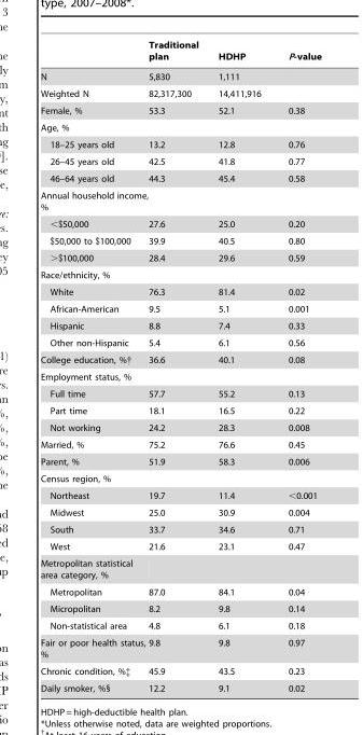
<table><thead><tr><td></td><td>Traditional plan</td><td>HDHP</td><td>P-value</td></tr></thead><tbody><tr><td>N</td><td>5,830</td><td>1,111</td><td></td></tr><tr><td>Weighted N</td><td>82,317,300</td><td>14,411,916</td><td></td></tr><tr><td>Female, %</td><td>53.3</td><td>52.1</td><td>0.38</td></tr><tr><td colspan="4">Age, %</td></tr><tr><td>18–25 years old</td><td>13.2</td><td>12.8</td><td>0.76</td></tr><tr><td>26–45 years old</td><td>42.5</td><td>41.8</td><td>0.77</td></tr><tr><td>46–64 years old</td><td>44.3</td><td>45.4</td><td>0.58</td></tr><tr><td colspan="4">Annual household income, %</td></tr><tr><td>&lt;$50,000</td><td>27.6</td><td>25.0</td><td>0.20</td></tr><tr><td>$50,000 to $100,000</td><td>39.9</td><td>40.5</td><td>0.80</td></tr><tr><td>&gt;$100,000</td><td>28.4</td><td>29.6</td><td>0.59</td></tr><tr><td colspan="4">Race/ethnicity, %</td></tr><tr><td>White</td><td>76.3</td><td>81.4</td><td>0.02</td></tr><tr><td>African-American</td><td>9.5</td><td>5.1</td><td>0.001</td></tr><tr><td>Hispanic</td><td>8.8</td><td>7.4</td><td>0.33</td></tr><tr><td>Other non-Hispanic</td><td>5.4</td><td>6.1</td><td>0.56</td></tr><tr><td>College education, %†</td><td>36.6</td><td>40.1</td><td>0.08</td></tr><tr><td colspan="4">Employment status, %</td></tr><tr><td>Full time</td><td>57.7</td><td>55.2</td><td>0.13</td></tr><tr><td>Part time</td><td>18.1</td><td>16.5</td><td>0.22</td></tr><tr><td>Not working</td><td>24.2</td><td>28.3</td><td>0.008</td></tr><tr><td>Married, %</td><td>75.2</td><td>76.6</td><td>0.45</td></tr><tr><td>Parent, %</td><td>51.9</td><td>58.3</td><td>0.006</td></tr><tr><td colspan="4">Census region, %</td></tr><tr><td>Northeast</td><td>19.7</td><td>11.4</td><td>&lt;0.001</td></tr><tr><td>Midwest</td><td>25.0</td><td>30.9</td><td>0.004</td></tr><tr><td>South</td><td>33.7</td><td>34.6</td><td>0.71</td></tr><tr><td>West</td><td>21.6</td><td>23.1</td><td>0.47</td></tr><tr><td colspan="4">Metropolitan statistical area category, %</td></tr><tr><td>Metropolitan</td><td>87.0</td><td>84.1</td><td>0.04</td></tr><tr><td>Micropolitan</td><td>8.2</td><td>9.8</td><td>0.14</td></tr><tr><td>Non-statistical area</td><td>4.8</td><td>6.1</td><td>0.18</td></tr><tr><td>Fair or poor health status, %</td><td>9.8</td><td>9.8</td><td>0.97</td></tr><tr><td>Chronic condition, %‡</td><td>45.9</td><td>43.5</td><td>0.23</td></tr><tr><td>Daily smoker, %§</td><td>12.2</td><td>9.1</td><td>0.02</td></tr></tbody></table>